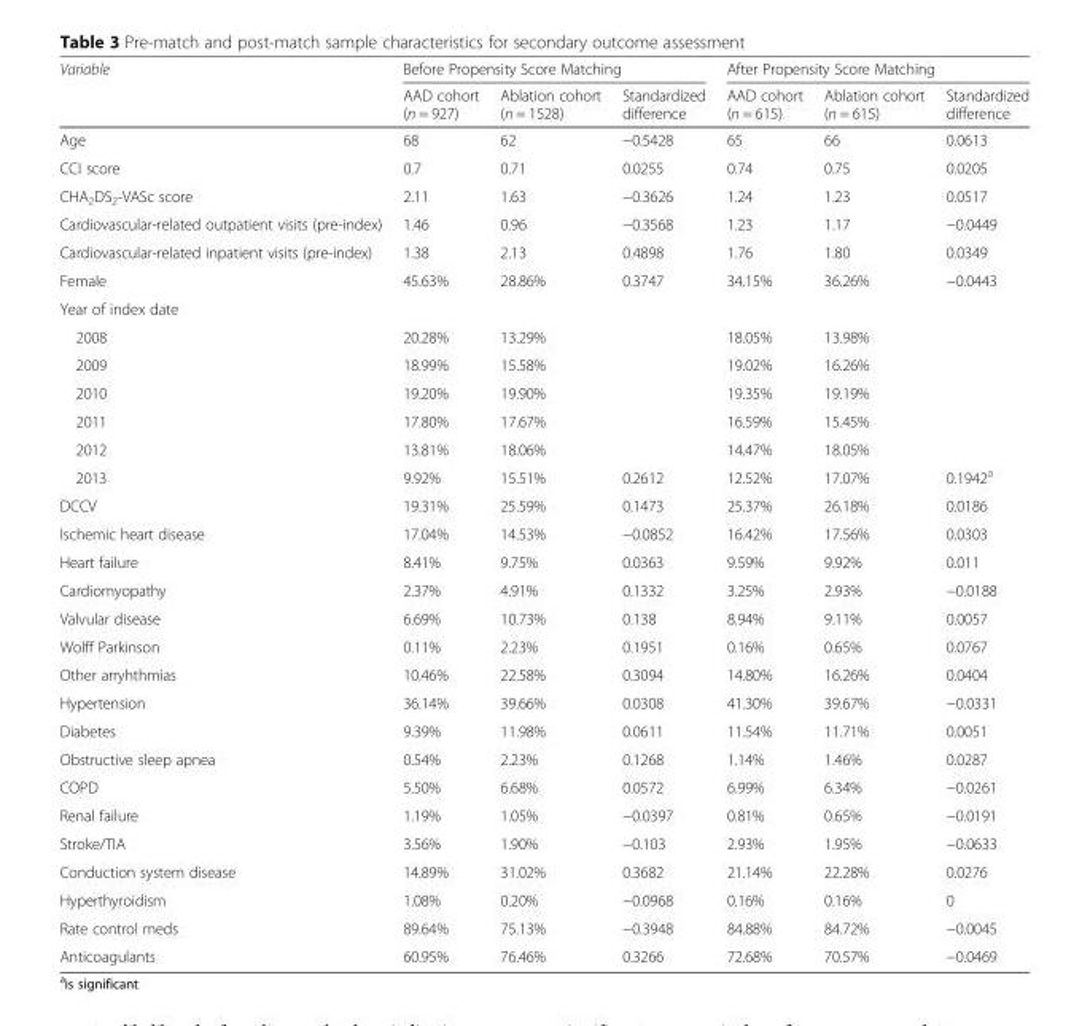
<table><thead><tr><td rowspan="2">Variable</td><td colspan="3">Before Propensity Score Matching</td><td colspan="3">After Propensity Score Matching</td></tr><tr><td>AAD cohort (n = 927)</td><td>Ablation cohort (n = 1528)</td><td>Standardized difference</td><td>AAD cohort (n = 615)</td><td>Ablation cohort (n = 615)</td><td>Standardized difference</td></tr></thead><tbody><tr><td>Age</td><td>68</td><td>62</td><td>−0.5428</td><td>65</td><td>66</td><td>0.0613</td></tr><tr><td>CCI score</td><td>0.7</td><td>0.71</td><td>0.0255</td><td>0.74</td><td>0.75</td><td>0.0205</td></tr><tr><td>CHA<sub>2</sub>DS<sub>2</sub>-VASc score</td><td>2.11</td><td>1.63</td><td>−0.3626</td><td>1.24</td><td>1.23</td><td>0.0517</td></tr><tr><td>Cardiovascular-related outpatient visits (pre-index)</td><td>1.46</td><td>0.96</td><td>−0.3568</td><td>1.23</td><td>1.17</td><td>−0.0449</td></tr><tr><td>Cardiovascular-related inpatient visits (pre-index)</td><td>1.38</td><td>2.13</td><td>0.4898</td><td>1.76</td><td>1.80</td><td>0.0349</td></tr><tr><td>Female</td><td>45.63%</td><td>28.86%</td><td>0.3747</td><td>34.15%</td><td>36.26%</td><td>−0.0443</td></tr><tr><td colspan="7">Year of index date</td></tr><tr><td>2008</td><td>20.28%</td><td>13.29%</td><td></td><td>18.05%</td><td>13.98%</td><td></td></tr><tr><td>2009</td><td>18.99%</td><td>15.58%</td><td></td><td>19.02%</td><td>16.26%</td><td></td></tr><tr><td>2010</td><td>19.20%</td><td>19.90%</td><td></td><td>19.35%</td><td>19.19%</td><td></td></tr><tr><td>2011</td><td>17.80%</td><td>17.67%</td><td></td><td>16.59%</td><td>15.45%</td><td></td></tr><tr><td>2012</td><td>13.81%</td><td>18.06%</td><td></td><td>14.47%</td><td>18.05%</td><td></td></tr><tr><td>2013</td><td>9.92%</td><td>15.51%</td><td>0.2612</td><td>12.52%</td><td>17.07%</td><td>0.1942<sup>a</sup></td></tr><tr><td>DCCV</td><td>19.31%</td><td>25.59%</td><td>0.1473</td><td>25.37%</td><td>26.18%</td><td>0.0186</td></tr><tr><td>Ischemic heart disease</td><td>17.04%</td><td>14.53%</td><td>−0.0852</td><td>16.42%</td><td>17.56%</td><td>0.0303</td></tr><tr><td>Heart failure</td><td>8.41%</td><td>9.75%</td><td>0.0363</td><td>9.59%</td><td>9.92%</td><td>0.011</td></tr><tr><td>Cardiomyopathy</td><td>2.37%</td><td>4.91%</td><td>0.1332</td><td>3.25%</td><td>2.93%</td><td>−0.0188</td></tr><tr><td>Valvular disease</td><td>6.69%</td><td>10.73%</td><td>0.138</td><td>8.94%</td><td>9.11%</td><td>0.0057</td></tr><tr><td>Wolff Parkinson</td><td>0.11%</td><td>2.23%</td><td>0.1951</td><td>0.16%</td><td>0.65%</td><td>0.0767</td></tr><tr><td>Other arryhthmias</td><td>10.46%</td><td>22.58%</td><td>0.3094</td><td>14.80%</td><td>16.26%</td><td>0.0404</td></tr><tr><td>Hypertension</td><td>36.14%</td><td>39.66%</td><td>0.0308</td><td>41.30%</td><td>39.67%</td><td>−0.0331</td></tr><tr><td>Diabetes</td><td>9.39%</td><td>11.98%</td><td>0.0611</td><td>11.54%</td><td>11.71%</td><td>0.0051</td></tr><tr><td>Obstructive sleep apnea</td><td>0.54%</td><td>2.23%</td><td>0.1268</td><td>1.14%</td><td>1.46%</td><td>0.0287</td></tr><tr><td>COPD</td><td>5.50%</td><td>6.68%</td><td>0.0572</td><td>6.99%</td><td>6.34%</td><td>−0.0261</td></tr><tr><td>Renal failure</td><td>1.19%</td><td>1.05%</td><td>−0.0397</td><td>0.81%</td><td>0.65%</td><td>−0.0191</td></tr><tr><td>Stroke/TIA</td><td>3.56%</td><td>1.90%</td><td>−0.103</td><td>2.93%</td><td>1.95%</td><td>−0.0633</td></tr><tr><td>Conduction system disease</td><td>14.89%</td><td>31.02%</td><td>0.3682</td><td>21.14%</td><td>22.28%</td><td>0.0276</td></tr><tr><td>Hyperthyroidism</td><td>1.08%</td><td>0.20%</td><td>−0.0968</td><td>0.16%</td><td>0.16%</td><td>0</td></tr><tr><td>Rate control meds</td><td>89.64%</td><td>75.13%</td><td>−0.3948</td><td>84.88%</td><td>84.72%</td><td>−0.0045</td></tr><tr><td>Anticoagulants</td><td>60.95%</td><td>76.46%</td><td>0.3266</td><td>72.68%</td><td>70.57%</td><td>−0.0469</td></tr></tbody></table>